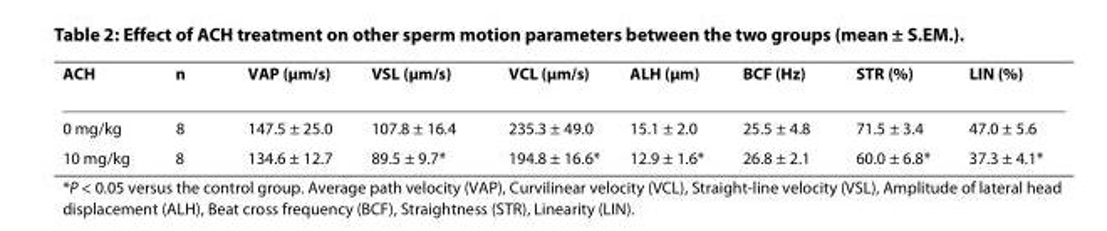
<table><thead><tr><td>ACH</td><td>n</td><td>VAP (μm/s)</td><td>VSL (μm/s)</td><td>VCL (μm/s)</td><td>ALH (μm)</td><td>BCF (Hz)</td><td>STR (%)</td><td>LIN (%)</td></tr></thead><tbody><tr><td>0 mg/kg</td><td>8</td><td>147.5 ± 25.0</td><td>107.8 ± 16.4</td><td>235.3 ± 49.0</td><td>15.1 ± 2.0</td><td>25.5 ± 4.8</td><td>71.5 ± 3.4</td><td>47.0 ± 5.6</td></tr><tr><td>10 mg/kg</td><td>8</td><td>134.6 ± 12.7</td><td>89.5 ± 9.7*</td><td>194.8 ± 16.6*</td><td>12.9 ± 1.6*</td><td>26.8 ± 2.1</td><td>60.0 ± 6.8*</td><td>37.3 ± 4.1*</td></tr></tbody></table>